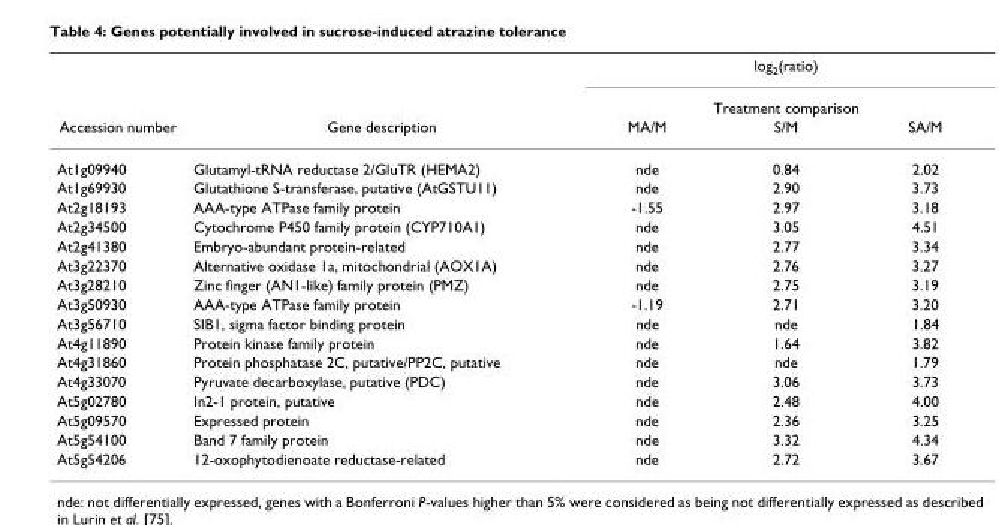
<table><thead><tr><td rowspan="3">Accession number</td><td rowspan="3">Gene description</td><td rowspan="2" colspan="3">log<sub>2</sub>(ratio) Treatment comparison</td></tr><tr></tr><tr><td>MA/M</td><td>S/M</td><td>SA/M</td></tr></thead><tbody><tr><td>At1g09940</td><td>Glutamyl-tRNA reductase 2/GluTR (HEMA2)</td><td>nde</td><td>0.84</td><td>2.02</td></tr><tr><td>At1g69930</td><td>Glutathione S-transferase, putative (AtGSTU11)</td><td>nde</td><td>2.90</td><td>3.73</td></tr><tr><td>At2g18193</td><td>AAA-type ATPase family protein</td><td>-1.55</td><td>2.97</td><td>3.18</td></tr><tr><td>At2g34500</td><td>Cytochrome P450 family protein (CYP710A1)</td><td>nde</td><td>3.05</td><td>4.51</td></tr><tr><td>At2g41380</td><td>Embryo-abundant protein-related</td><td>nde</td><td>2.77</td><td>3.34</td></tr><tr><td>At3g22370</td><td>Alternative oxidase 1a, mitochondrial (AOX1A)</td><td>nde</td><td>2.76</td><td>3.27</td></tr><tr><td>At3g28210</td><td>Zinc finger (AN1-like) family protein (PMZ)</td><td>nde</td><td>2.75</td><td>3.19</td></tr><tr><td>At3g50930</td><td>AAA-type ATPase family protein</td><td>-1.19</td><td>2.71</td><td>3.20</td></tr><tr><td>At3g56710</td><td>SIB1, sigma factor binding protein</td><td>nde</td><td>nde</td><td>1.84</td></tr><tr><td>At4g11890</td><td>Protein kinase family protein</td><td>nde</td><td>1.64</td><td>3.82</td></tr><tr><td>At4g31860</td><td>Protein phosphatase 2C, putative/PP2C, putative</td><td>nde</td><td>nde</td><td>1.79</td></tr><tr><td>At4g33070</td><td>Pyruvate decarboxylase, putative (PDC)</td><td>nde</td><td>3.06</td><td>3.73</td></tr><tr><td>At5g02780</td><td>In2-1 protein, putative</td><td>nde</td><td>2.48</td><td>4.00</td></tr><tr><td>At5g09570</td><td>Expressed protein</td><td>nde</td><td>2.36</td><td>3.25</td></tr><tr><td>At5g54100</td><td>Band 7 family protein</td><td>nde</td><td>3.32</td><td>4.34</td></tr><tr><td>At5g54206</td><td>12-oxophytodienoate reductase-related</td><td>nde</td><td>2.72</td><td>3.67</td></tr></tbody></table>